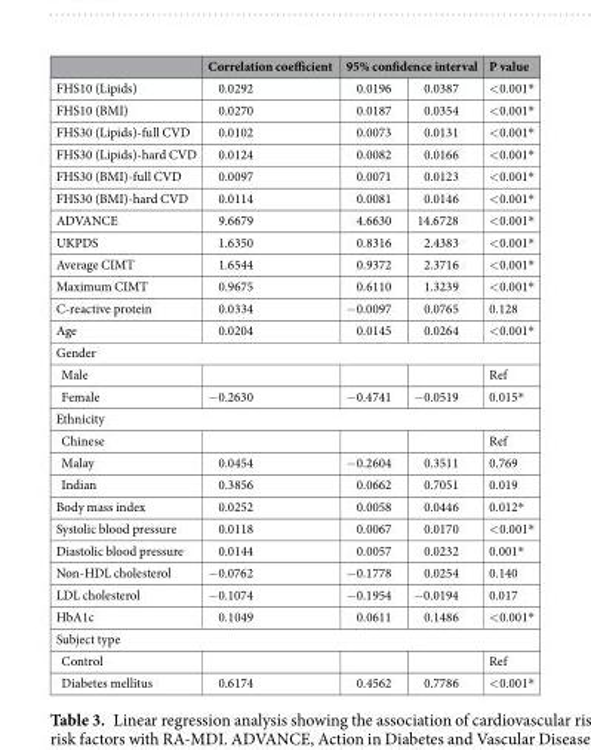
<table><thead><tr><td rowspan="2">FHS10 (Lipids)</td><td rowspan="2">Correlation coefficient 0.0292</td><td colspan="2">95% confidence interval</td><td rowspan="2">P value &lt;0.001*</td></tr><tr><td>0.0196</td><td>0.0387</td></tr></thead><tbody><tr><td>FHS10 (BMI)</td><td>0.0270</td><td>0.0187</td><td>0.0354</td><td>&lt;0.001*</td></tr><tr><td>FHS30 (Lipids)-full CVD</td><td>0.0102</td><td>0.0073</td><td>0.0131</td><td>&lt;0.001*</td></tr><tr><td>FHS30 (Lipids)-hard CVD</td><td>0.0124</td><td>0.0082</td><td>0.0166</td><td>&lt;0.001*</td></tr><tr><td>FHS30 (BMI)-full CVD</td><td>0.0097</td><td>0.0071</td><td>0.0123</td><td>&lt;0.001*</td></tr><tr><td>FHS30 (BMI)-hard CVD</td><td>0.0114</td><td>0.0081</td><td>0.0146</td><td>&lt;0.001*</td></tr><tr><td>ADVANCE</td><td>9.6679</td><td>4.6630</td><td>14.6728</td><td>&lt;0.001*</td></tr><tr><td>UKPDS</td><td>1.6350</td><td>0.8316</td><td>2.4383</td><td>&lt;0.001*</td></tr><tr><td>Average CIMT</td><td>1.6544</td><td>0.9372</td><td>2.3716</td><td>&lt;0.001*</td></tr><tr><td>Maximum CIMT</td><td>0.9675</td><td>0.6110</td><td>1.3239</td><td>&lt;0.001*</td></tr><tr><td>C-reactive protein</td><td>0.0334</td><td>−0.0097</td><td>0.0765</td><td>0.128</td></tr><tr><td>Age</td><td>0.0204</td><td>0.0145</td><td>0.0264</td><td>&lt;0.001*</td></tr><tr><td colspan="5">Gender</td></tr><tr><td>Male</td><td></td><td></td><td></td><td>Ref</td></tr><tr><td>Female</td><td>−0.2630</td><td>−0.4741</td><td>−0.0519</td><td>0.015*</td></tr><tr><td colspan="5">Ethnicity</td></tr><tr><td>Chinese</td><td></td><td></td><td></td><td>Ref</td></tr><tr><td>Malay</td><td>0.0454</td><td>−0.2604</td><td>0.3511</td><td>0.769</td></tr><tr><td>Indian</td><td>0.3856</td><td>0.0662</td><td>0.7051</td><td>0.019</td></tr><tr><td>Body mass index</td><td>0.0252</td><td>0.0058</td><td>0.0446</td><td>0.012*</td></tr><tr><td>Systolic blood pressure</td><td>0.0118</td><td>0.0067</td><td>0.0170</td><td>&lt;0.001*</td></tr><tr><td>Diastolic blood pressure</td><td>0.0144</td><td>0.0057</td><td>0.0232</td><td>0.001*</td></tr><tr><td>Non-HDL cholesterol</td><td>−0.0762</td><td>−0.1778</td><td>0.0254</td><td>0.140</td></tr><tr><td>LDL cholesterol</td><td>−0.1074</td><td>−0.1954</td><td>−0.0194</td><td>0.017</td></tr><tr><td>HbA1c</td><td>0.1049</td><td>0.0611</td><td>0.1486</td><td>&lt;0.001*</td></tr><tr><td colspan="5">Subject type</td></tr><tr><td>Control</td><td></td><td></td><td></td><td>Ref</td></tr><tr><td>Diabetes mellitus</td><td>0.6174</td><td>0.4562</td><td>0.7786</td><td>&lt;0.001*</td></tr></tbody></table>